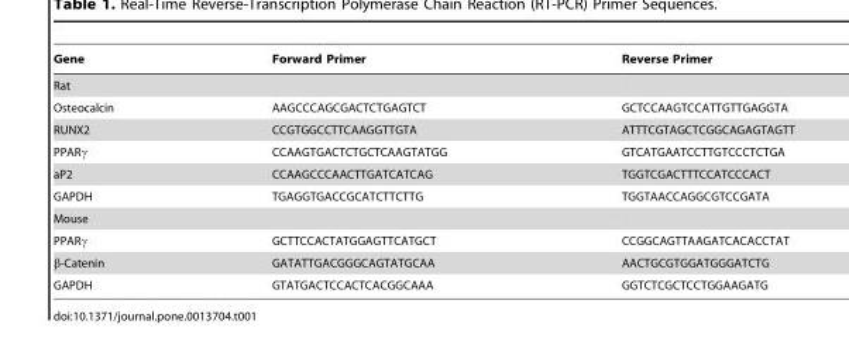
<table><thead><tr><td>Gene</td><td>Forward Primer</td><td>Reverse Primer</td></tr></thead><tbody><tr><td colspan="3">Rat</td></tr><tr><td>Osteocalcin</td><td>AAGCCCAGCGACTCTGAGTCT</td><td>GCTCCAAGTCCATTGTTGAGGTA</td></tr><tr><td>RUNX2</td><td>CCGTGGCCTTCAAGGTTGTA</td><td>ATTTCGTAGCTCGGCAGAGTAGTT</td></tr><tr><td>PPARγ</td><td>CCAAGTGACTCTGCTCAAGTATGG</td><td>GTCATGAATCCTTGTCCCTCTGA</td></tr><tr><td>aP2</td><td>CCAAGCCCAACTTGATCATCAG</td><td>TGGTCGACTTTCCATCCCACT</td></tr><tr><td>GAPDH</td><td>TGAGGTGACCGCATCTTCTTG</td><td>TGGTAACCAGGCGTCCGATA</td></tr><tr><td colspan="3">Mouse</td></tr><tr><td>PPARγ</td><td>GCTTCCACTATGGAGTTCATGCT</td><td>CCGGCAGTTAAGATCACACCTAT</td></tr><tr><td>β-Catenin</td><td>GATATTGACGGGCAGTATGCAA</td><td>AACTGCGTGGATGGGATCTG</td></tr><tr><td>GAPDH</td><td>GTATGACTCCACTCACGGCAAA</td><td>GGTCTCGCTCCTGGAAGATG</td></tr></tbody></table>